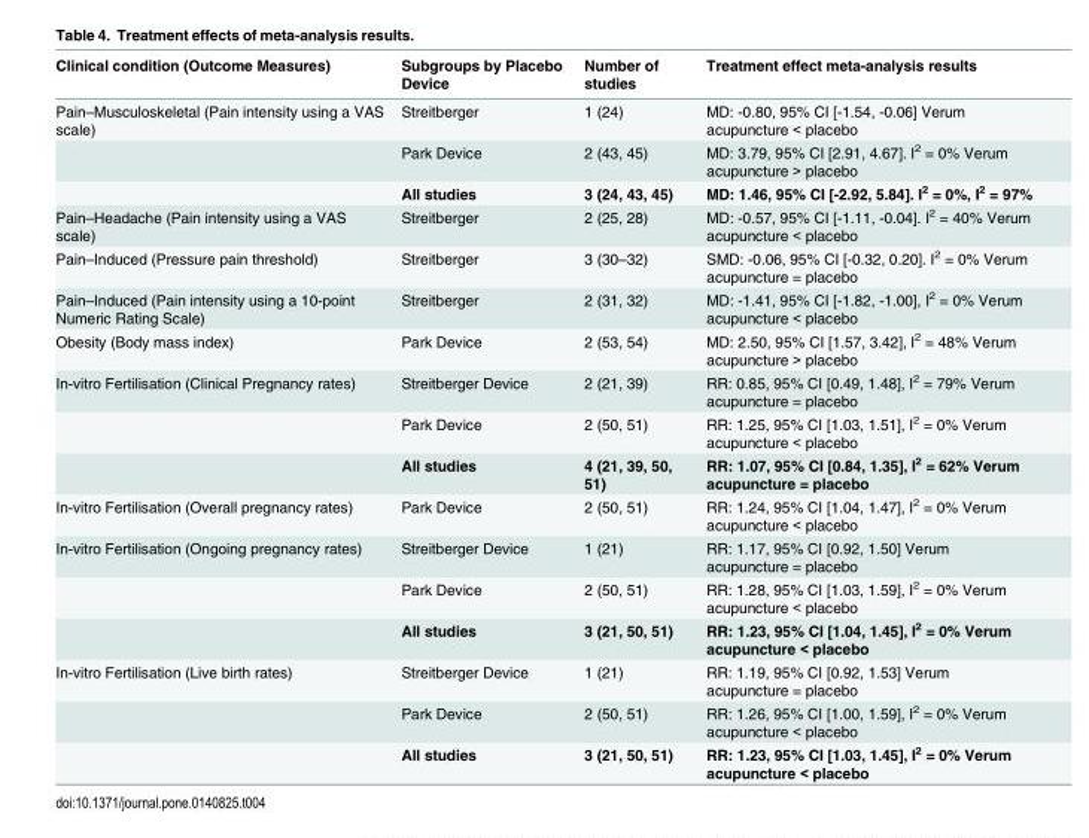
<table><thead><tr><td>Clinical condition (Outcome Measures)</td><td>Subgroups by Placebo Device</td><td>Number of studies</td><td>Treatment effect meta-analysis results</td></tr></thead><tbody><tr><td rowspan="3">Pain–Musculoskeletal (Pain intensity using a VAS scale)</td><td>Streitberger</td><td>1 (24)</td><td>MD: -0.80, 95% CI [-1.54, -0.06] Verum acupuncture &lt; placebo</td></tr><tr><td>Park Device</td><td>2 (43, 45)</td><td>MD: 3.79, 95% CI [2.91, 4.67]. I<sup>2</sup> = 0% Verum acupuncture &gt; placebo</td></tr><tr><td>All studies</td><td>3 (24, 43, 45)</td><td>MD: 1.46, 95% CI [-2.92, 5.84]. I<sup>2</sup> = 0%, I<sup>2</sup> = 97%</td></tr><tr><td>Pain–Headache (Pain intensity using a VAS scale)</td><td>Streitberger</td><td>2 (25, 28)</td><td>MD: -0.57, 95% CI [-1.11, -0.04]. I<sup>2</sup> = 40% Verum acupuncture &lt; placebo</td></tr><tr><td>Pain–Induced (Pressure pain threshold)</td><td>Streitberger</td><td>3 (30–32)</td><td>SMD: -0.06, 95% CI [-0.32, 0.20]. I<sup>2</sup> = 0% Verum acupuncture = placebo</td></tr><tr><td>Pain–Induced (Pain intensity using a 10-point Numeric Rating Scale)</td><td>Streitberger</td><td>2 (31, 32)</td><td>MD: -1.41, 95% CI [-1.82, -1.00], I<sup>2</sup> = 0% Verum acupuncture &lt; placebo</td></tr><tr><td>Obesity (Body mass index)</td><td>Park Device</td><td>2 (53, 54)</td><td>MD: 2.50, 95% CI [1.57, 3.42], I<sup>2</sup> = 48% Verum acupuncture &gt; placebo</td></tr><tr><td rowspan="3">In-vitro Fertilisation (Clinical Pregnancy rates)</td><td>Streitberger Device</td><td>2 (21, 39)</td><td>RR: 0.85, 95% CI [0.49, 1.48], I<sup>2</sup> = 79% Verum acupuncture = placebo</td></tr><tr><td>Park Device</td><td>2 (50, 51)</td><td>RR: 1.25, 95% CI [1.03, 1.51], I<sup>2</sup> = 0% Verum acupuncture &lt; placebo</td></tr><tr><td>All studies</td><td>4 (21, 39, 50, 51)</td><td>RR: 1.07, 95% CI [0.84, 1.35], I<sup>2</sup> = 62% Verum acupuncture = placebo</td></tr><tr><td>In-vitro Fertilisation (Overall pregnancy rates)</td><td>Park Device</td><td>2 (50, 51)</td><td>RR: 1.24, 95% CI [1.04, 1.47], I<sup>2</sup> = 0% Verum acupuncture &lt; placebo</td></tr><tr><td rowspan="3">In-vitro Fertilisation (Ongoing pregnancy rates)</td><td>Streitberger Device</td><td>1 (21)</td><td>RR: 1.17, 95% CI [0.92, 1.50] Verum acupuncture = placebo</td></tr><tr><td>Park Device</td><td>2 (50, 51)</td><td>RR: 1.28, 95% CI [1.03, 1.59], I<sup>2</sup> = 0% Verum acupuncture &lt; placebo</td></tr><tr><td>All studies</td><td>3 (21, 50, 51)</td><td>RR: 1.23, 95% CI [1.04, 1.45], I<sup>2</sup> = 0% Verum acupuncture &lt; placebo</td></tr><tr><td rowspan="3">In-vitro Fertilisation (Live birth rates)</td><td>Streitberger Device</td><td>1 (21)</td><td>RR: 1.19, 95% CI [0.92, 1.53] Verum acupuncture = placebo</td></tr><tr><td>Park Device</td><td>2 (50, 51)</td><td>RR: 1.26, 95% CI [1.00, 1.59], I<sup>2</sup> = 0% Verum acupuncture &lt; placebo</td></tr><tr><td>All studies</td><td>3 (21, 50, 51)</td><td>RR: 1.23, 95% CI [1.03, 1.45], I<sup>2</sup> = 0% Verum acupuncture &lt; placebo</td></tr></tbody></table>